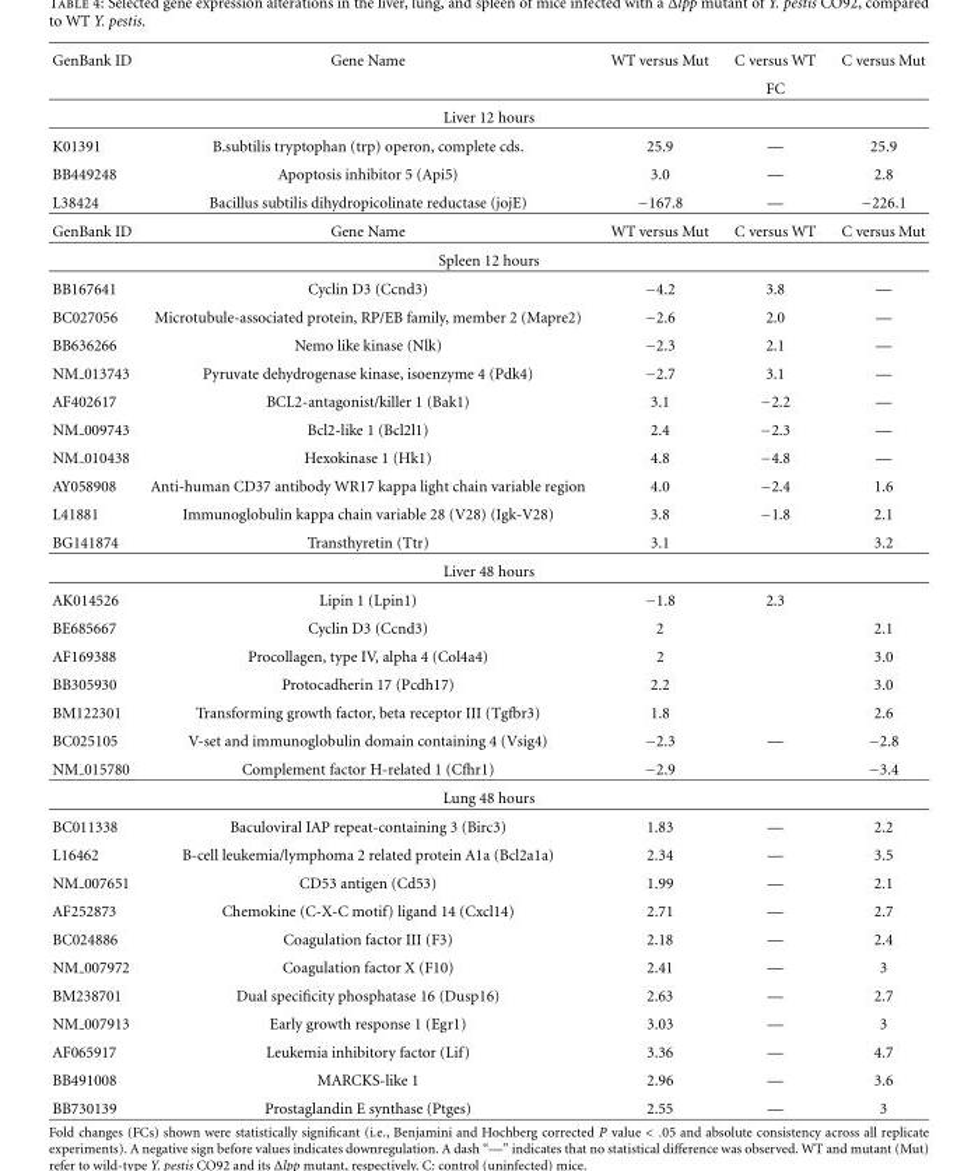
<table><thead><tr><td rowspan="2">GenBank ID</td><td rowspan="2">Gene Name</td><td rowspan="2">WT versus Mut</td><td rowspan="2">C versus WT FC</td><td rowspan="2">C versus Mut</td></tr><tr></tr></thead><tbody><tr><td colspan="5">Liver 12 hours</td></tr><tr><td>K01391</td><td>B.subtilis tryptophan (trp) operon, complete cds.</td><td>25.9</td><td>—</td><td>25.9</td></tr><tr><td>BB449248</td><td>Apoptosis inhibitor 5 (Api5)</td><td>3.0</td><td>—</td><td>2.8</td></tr><tr><td>L38424</td><td>Bacillus subtilis dihydropicolinate reductase (jojE)</td><td>−167.8</td><td>—</td><td>−226.1</td></tr><tr><td>GenBank ID</td><td>Gene Name</td><td>WT versus Mut</td><td>C versus WT</td><td>C versus Mut</td></tr><tr><td colspan="5">Spleen 12 hours</td></tr><tr><td>BB167641</td><td>Cyclin D3 (Ccnd3)</td><td>−4.2</td><td>3.8</td><td>—</td></tr><tr><td>BC027056</td><td>Microtubule-associated protein, RP/EB family, member 2 (Mapre2)</td><td>−2.6</td><td>2.0</td><td>—</td></tr><tr><td>BB636266</td><td>Nemo like kinase (Nlk)</td><td>−2.3</td><td>2.1</td><td>—</td></tr><tr><td>NM 013743</td><td>Pyruvate dehydrogenase kinase, isoenzyme 4 (Pdk4)</td><td>−2.7</td><td>3.1</td><td>—</td></tr><tr><td>AF402617</td><td>BCL2-antagonist/killer 1 (Bak1)</td><td>3.1</td><td>−2.2</td><td>—</td></tr><tr><td>NM 009743</td><td>Bcl2-like 1 (Bcl2l1)</td><td>2.4</td><td>−2.3</td><td>—</td></tr><tr><td>NM 010438</td><td>Hexokinase 1 (Hk1)</td><td>4.8</td><td>−4.8</td><td>—</td></tr><tr><td>AY058908</td><td>Anti-human CD37 antibody WR17 kappa light chain variable region</td><td>4.0</td><td>−2.4</td><td>1.6</td></tr><tr><td>L41881</td><td>Immunoglobulin kappa chain variable 28 (V28) (Igk-V28)</td><td>3.8</td><td>−1.8</td><td>2.1</td></tr><tr><td>BG141874</td><td>Transthyretin (Ttr)</td><td>3.1</td><td></td><td>3.2</td></tr><tr><td colspan="5">Liver 48 hours</td></tr><tr><td>AK014526</td><td>Lipin 1 (Lpin1)</td><td>−1.8</td><td>2.3</td><td></td></tr><tr><td>BE685667</td><td>Cyclin D3 (Ccnd3)</td><td>2</td><td></td><td>2.1</td></tr><tr><td>AF169388</td><td>Procollagen, type IV, alpha 4 (Col4a4)</td><td>2</td><td></td><td>3.0</td></tr><tr><td>BB305930</td><td>Protocadherin 17 (Pcdh17)</td><td>2.2</td><td></td><td>3.0</td></tr><tr><td>BM122301</td><td>Transforming growth factor, beta receptor III (Tgfbr3)</td><td>1.8</td><td></td><td>2.6</td></tr><tr><td>BC025105</td><td>V-set and immunoglobulin domain containing 4 (Vsig4)</td><td>−2.3</td><td>—</td><td>−2.8</td></tr><tr><td>NM 015780</td><td>Complement factor H-related 1 (Cfhr1)</td><td>−2.9</td><td></td><td>−3.4</td></tr><tr><td colspan="5">Lung 48 hours</td></tr><tr><td>BC011338</td><td>Baculoviral IAP repeat-containing 3 (Birc3)</td><td>1.83</td><td>—</td><td>2.2</td></tr><tr><td>L16462</td><td>B-cell leukemia/lymphoma 2 related protein A1a (Bcl2a1a)</td><td>2.34</td><td>—</td><td>3.5</td></tr><tr><td>NM 007651</td><td>CD53 antigen (Cd53)</td><td>1.99</td><td>—</td><td>2.1</td></tr><tr><td>AF252873</td><td>Chemokine (C-X-C motif) ligand 14 (Cxcl14)</td><td>2.71</td><td>—</td><td>2.7</td></tr><tr><td>BC024886</td><td>Coagulation factor III (F3)</td><td>2.18</td><td>—</td><td>2.4</td></tr><tr><td>NM 007972</td><td>Coagulation factor X (F10)</td><td>2.41</td><td>—</td><td>3</td></tr><tr><td>BM238701</td><td>Dual specificity phosphatase 16 (Dusp16)</td><td>2.63</td><td>—</td><td>2.7</td></tr><tr><td>NM 007913</td><td>Early growth response 1 (Egr1)</td><td>3.03</td><td>—</td><td>3</td></tr><tr><td>AF065917</td><td>Leukemia inhibitory factor (Lif)</td><td>3.36</td><td>—</td><td>4.7</td></tr><tr><td>BB491008</td><td>MARCKS-like 1</td><td>2.96</td><td>—</td><td>3.6</td></tr><tr><td>BB730139</td><td>Prostaglandin E synthase (Ptges)</td><td>2.55</td><td>—</td><td>3</td></tr></tbody></table>